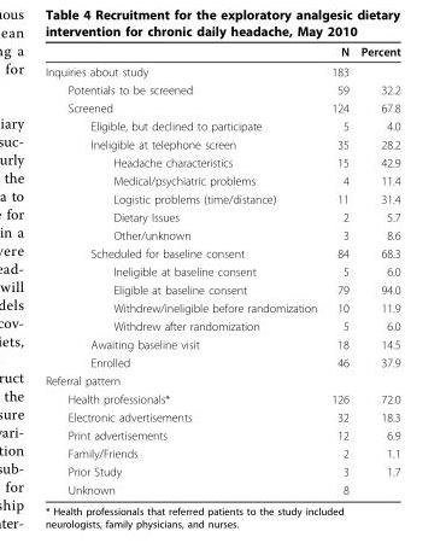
<table><thead><tr><td></td><td>N</td><td>Percent</td></tr></thead><tbody><tr><td>Inquiries about study</td><td>183</td><td></td></tr><tr><td>Potentials to be screened</td><td>59</td><td>32.2</td></tr><tr><td>Screened</td><td>124</td><td>67.8</td></tr><tr><td>Eligible, but declined to participate</td><td>5</td><td>4.0</td></tr><tr><td>Ineligible at telephone screen</td><td>35</td><td>28.2</td></tr><tr><td>Headache characteristics</td><td>15</td><td>42.9</td></tr><tr><td>Medical/psychiatric problems</td><td>4</td><td>11.4</td></tr><tr><td>Logistic problems (time/distance)</td><td>11</td><td>31.4</td></tr><tr><td>Dietary Issues</td><td>2</td><td>5.7</td></tr><tr><td>Other/unknown</td><td>3</td><td>8.6</td></tr><tr><td>Scheduled for baseline consent</td><td>84</td><td>68.3</td></tr><tr><td>Ineligible at baseline consent</td><td>5</td><td>6.0</td></tr><tr><td>Eligible at baseline consent</td><td>79</td><td>94.0</td></tr><tr><td>Withdrew/ineligible before randomization</td><td>10</td><td>11.9</td></tr><tr><td>Withdrew after randomization</td><td>5</td><td>6.0</td></tr><tr><td>Awaiting baseline visit</td><td>18</td><td>14.5</td></tr><tr><td>Enrolled</td><td>46</td><td>37.9</td></tr><tr><td colspan="3">Referral pattern</td></tr><tr><td>Health professionals*</td><td>126</td><td>72.0</td></tr><tr><td>Electronic advertisements</td><td>32</td><td>18.3</td></tr><tr><td>Print advertisements</td><td>12</td><td>6.9</td></tr><tr><td>Family/Friends</td><td>2</td><td>1.1</td></tr><tr><td>Prior Study</td><td>3</td><td>1.7</td></tr><tr><td>Unknown</td><td>8</td><td></td></tr></tbody></table>